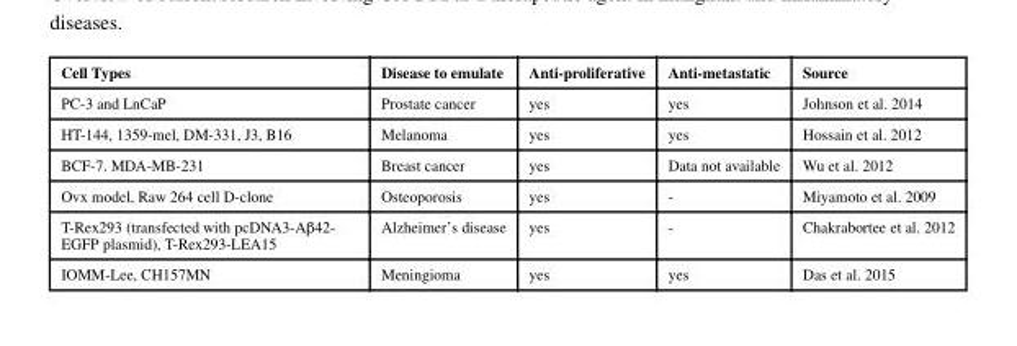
<table><thead><tr><td>Cell Types</td><td>Disease to emulate</td><td>Anti-proliferative</td><td>Anti-metastatic</td><td>Source</td></tr></thead><tbody><tr><td>PC-3 and LnCaP</td><td>Prostate cancer</td><td>yes</td><td>yes</td><td>Johnson et al. 2014</td></tr><tr><td>HT-144, 1359-mel, DM-331, J3, B16</td><td>Melanoma</td><td>yes</td><td>yes</td><td>Hossain et al. 2012</td></tr><tr><td>BCF-7. MDA-MB-231</td><td>Breast cancer</td><td>yes</td><td>Data not available</td><td>Wu et al. 2012</td></tr><tr><td>Ovx model, Raw 264 cell D-clone</td><td>Osteoporosis</td><td>yes</td><td>-</td><td>Miyamoto et al. 2009</td></tr><tr><td>T-Rex293 (transfected with pcDNA3-Aβ42- EGFP plasmid), T-Rex293-LEA15</td><td>Alzheimer’s disease</td><td>yes</td><td>-</td><td>Chakrabortee et al. 2012</td></tr><tr><td>IOMM-Lee, CH157MN</td><td>Meningioma</td><td>yes</td><td>yes</td><td>Das et al. 2015</td></tr></tbody></table>